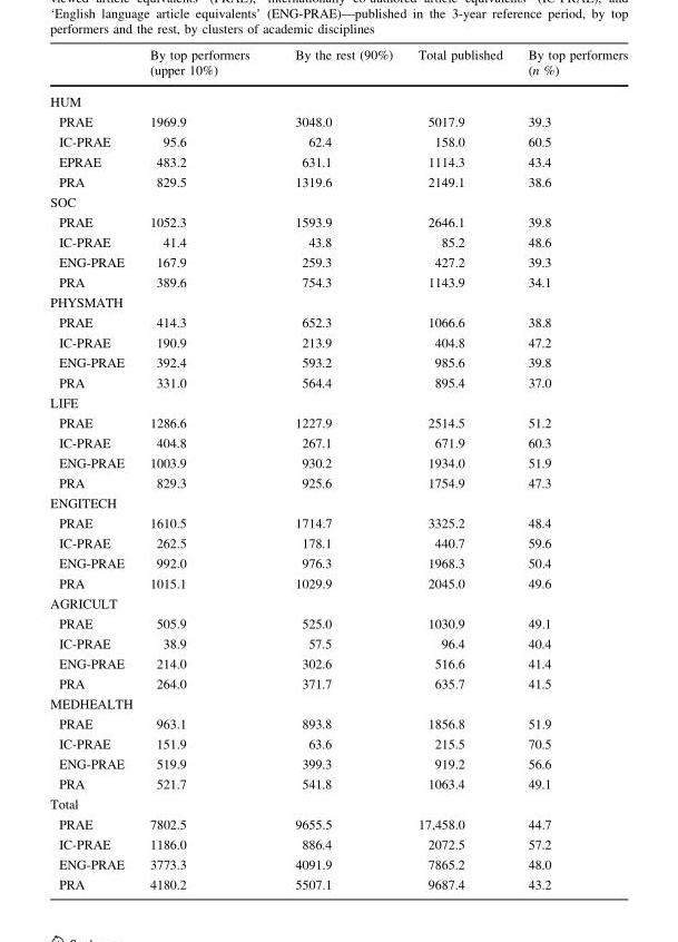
<table><thead><tr><td></td><td>By top performers (upper 10%)</td><td>By the rest (90%)</td><td>Total published</td><td>By top performers (n %)</td></tr></thead><tbody><tr><td colspan="5">HUM</td></tr><tr><td>PRAE</td><td>1969.9</td><td>3048.0</td><td>5017.9</td><td>39.3</td></tr><tr><td>IC-PRAE</td><td>95.6</td><td>62.4</td><td>158.0</td><td>60.5</td></tr><tr><td>EPRAE</td><td>483.2</td><td>631.1</td><td>1114.3</td><td>43.4</td></tr><tr><td>PRA</td><td>829.5</td><td>1319.6</td><td>2149.1</td><td>38.6</td></tr><tr><td colspan="5">SOC</td></tr><tr><td>PRAE</td><td>1052.3</td><td>1593.9</td><td>2646.1</td><td>39.8</td></tr><tr><td>IC-PRAE</td><td>41.4</td><td>43.8</td><td>85.2</td><td>48.6</td></tr><tr><td>ENG-PRAE</td><td>167.9</td><td>259.3</td><td>427.2</td><td>39.3</td></tr><tr><td>PRA</td><td>389.6</td><td>754.3</td><td>1143.9</td><td>34.1</td></tr><tr><td colspan="5">PHYSMATH</td></tr><tr><td>PRAE</td><td>414.3</td><td>652.3</td><td>1066.6</td><td>38.8</td></tr><tr><td>IC-PRAE</td><td>190.9</td><td>213.9</td><td>404.8</td><td>47.2</td></tr><tr><td>ENG-PRAE</td><td>392.4</td><td>593.2</td><td>985.6</td><td>39.8</td></tr><tr><td>PRA</td><td>331.0</td><td>564.4</td><td>895.4</td><td>37.0</td></tr><tr><td colspan="5">LIFE</td></tr><tr><td>PRAE</td><td>1286.6</td><td>1227.9</td><td>2514.5</td><td>51.2</td></tr><tr><td>IC-PRAE</td><td>404.8</td><td>267.1</td><td>671.9</td><td>60.3</td></tr><tr><td>ENG-PRAE</td><td>1003.9</td><td>930.2</td><td>1934.0</td><td>51.9</td></tr><tr><td>PRA</td><td>829.3</td><td>925.6</td><td>1754.9</td><td>47.3</td></tr><tr><td colspan="5">ENGITECH</td></tr><tr><td>PRAE</td><td>1610.5</td><td>1714.7</td><td>3325.2</td><td>48.4</td></tr><tr><td>IC-PRAE</td><td>262.5</td><td>178.1</td><td>440.7</td><td>59.6</td></tr><tr><td>ENG-PRAE</td><td>992.0</td><td>976.3</td><td>1968.3</td><td>50.4</td></tr><tr><td>PRA</td><td>1015.1</td><td>1029.9</td><td>2045.0</td><td>49.6</td></tr><tr><td colspan="5">AGRICULT</td></tr><tr><td>PRAE</td><td>505.9</td><td>525.0</td><td>1030.9</td><td>49.1</td></tr><tr><td>IC-PRAE</td><td>38.9</td><td>57.5</td><td>96.4</td><td>40.4</td></tr><tr><td>ENG-PRAE</td><td>214.0</td><td>302.6</td><td>516.6</td><td>41.4</td></tr><tr><td>PRA</td><td>264.0</td><td>371.7</td><td>635.7</td><td>41.5</td></tr><tr><td colspan="5">MEDHEALTH</td></tr><tr><td>PRAE</td><td>963.1</td><td>893.8</td><td>1856.8</td><td>51.9</td></tr><tr><td>IC-PRAE</td><td>151.9</td><td>63.6</td><td>215.5</td><td>70.5</td></tr><tr><td>ENG-PRAE</td><td>519.9</td><td>399.3</td><td>919.2</td><td>56.6</td></tr><tr><td>PRA</td><td>521.7</td><td>541.8</td><td>1063.4</td><td>49.1</td></tr><tr><td colspan="5">Total</td></tr><tr><td>PRAE</td><td>7802.5</td><td>9655.5</td><td>17,458.0</td><td>44.7</td></tr><tr><td>IC-PRAE</td><td>1186.0</td><td>886.4</td><td>2072.5</td><td>57.2</td></tr><tr><td>ENG-PRAE</td><td>3773.3</td><td>4091.9</td><td>7865.2</td><td>48.0</td></tr><tr><td>PRA</td><td>4180.2</td><td>5507.1</td><td>9687.4</td><td>43.2</td></tr></tbody></table>